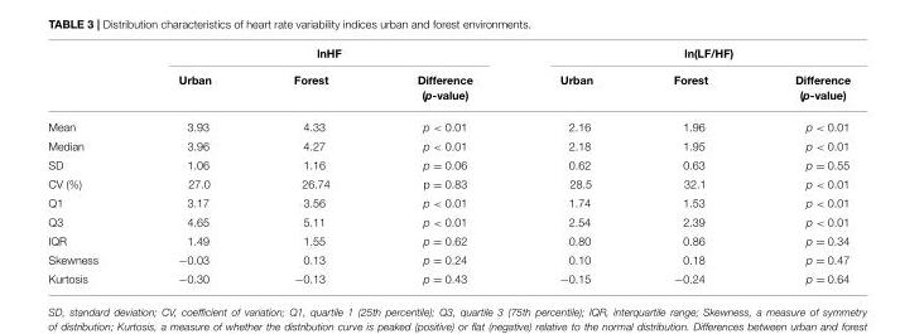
<table><thead><tr><td rowspan="2"></td><td colspan="3">lnHF</td><td colspan="3">ln(LF/HF)</td></tr><tr><td>Urban</td><td>Forest</td><td>Difference (p-value)</td><td>Urban</td><td>Forest</td><td>Difference (p-value)</td></tr></thead><tbody><tr><td>Mean</td><td>3.93</td><td>4.33</td><td>p &lt; 0.01</td><td>2.16</td><td>1.96</td><td>p &lt; 0.01</td></tr><tr><td>Median</td><td>3.96</td><td>4.27</td><td>p &lt; 0.01</td><td>2.18</td><td>1.95</td><td>p &lt; 0.01</td></tr><tr><td>SD</td><td>1.06</td><td>1.16</td><td>p = 0.06</td><td>0.62</td><td>0.63</td><td>p = 0.55</td></tr><tr><td>CV (%)</td><td>27.0</td><td>26.74</td><td>p = 0.83</td><td>28.5</td><td>32.1</td><td>p &lt; 0.01</td></tr><tr><td>Q1</td><td>3.17</td><td>3.56</td><td>p &lt; 0.01</td><td>1.74</td><td>1.53</td><td>p &lt; 0.01</td></tr><tr><td>Q3</td><td>4.65</td><td>5.11</td><td>p &lt; 0.01</td><td>2.54</td><td>2.39</td><td>p &lt; 0.01</td></tr><tr><td>IQR</td><td>1.49</td><td>1.55</td><td>p = 0.62</td><td>0.80</td><td>0.86</td><td>p = 0.34</td></tr><tr><td>Skewness</td><td>−0.03</td><td>0.13</td><td>p = 0.24</td><td>0.10</td><td>0.18</td><td>p = 0.47</td></tr><tr><td>Kurtosis</td><td>−0.30</td><td>−0.13</td><td>p = 0.43</td><td>−0.15</td><td>−0.24</td><td>p = 0.64</td></tr></tbody></table>